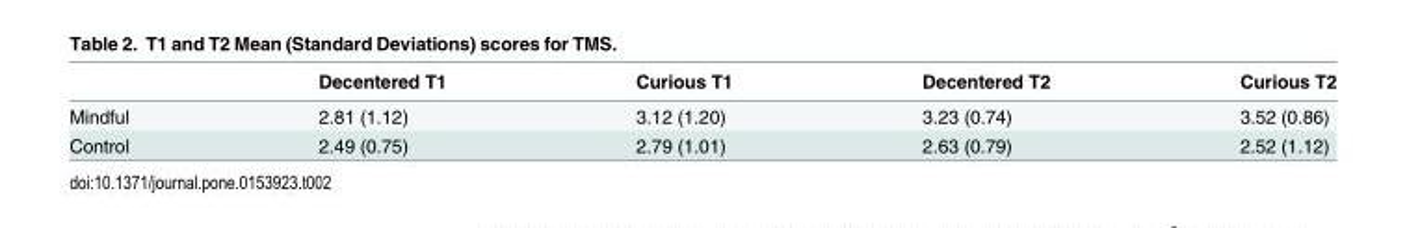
<table><thead><tr><td></td><td>Decentered T1</td><td>Curious T1</td><td>Decentered T2</td><td>Curious T2</td></tr></thead><tbody><tr><td>Mindful</td><td>2.81 (1.12)</td><td>3.12 (1.20)</td><td>3.23 (0.74)</td><td>3.52 (0.86)</td></tr><tr><td>Control</td><td>2.49 (0.75)</td><td>2.79 (1.01)</td><td>2.63 (0.79)</td><td>2.52 (1.12)</td></tr></tbody></table>